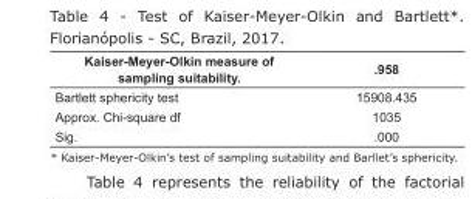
<table><tbody><tr><td>Kaiser-Meyer-Olkin measure of sampling suitability.</td><td>.958</td></tr><tr><td>Bartlett sphericity test</td><td>15908.435</td></tr><tr><td>Approx. Chi-square df</td><td>1035</td></tr><tr><td>Sig.</td><td>.000</td></tr></tbody></table>